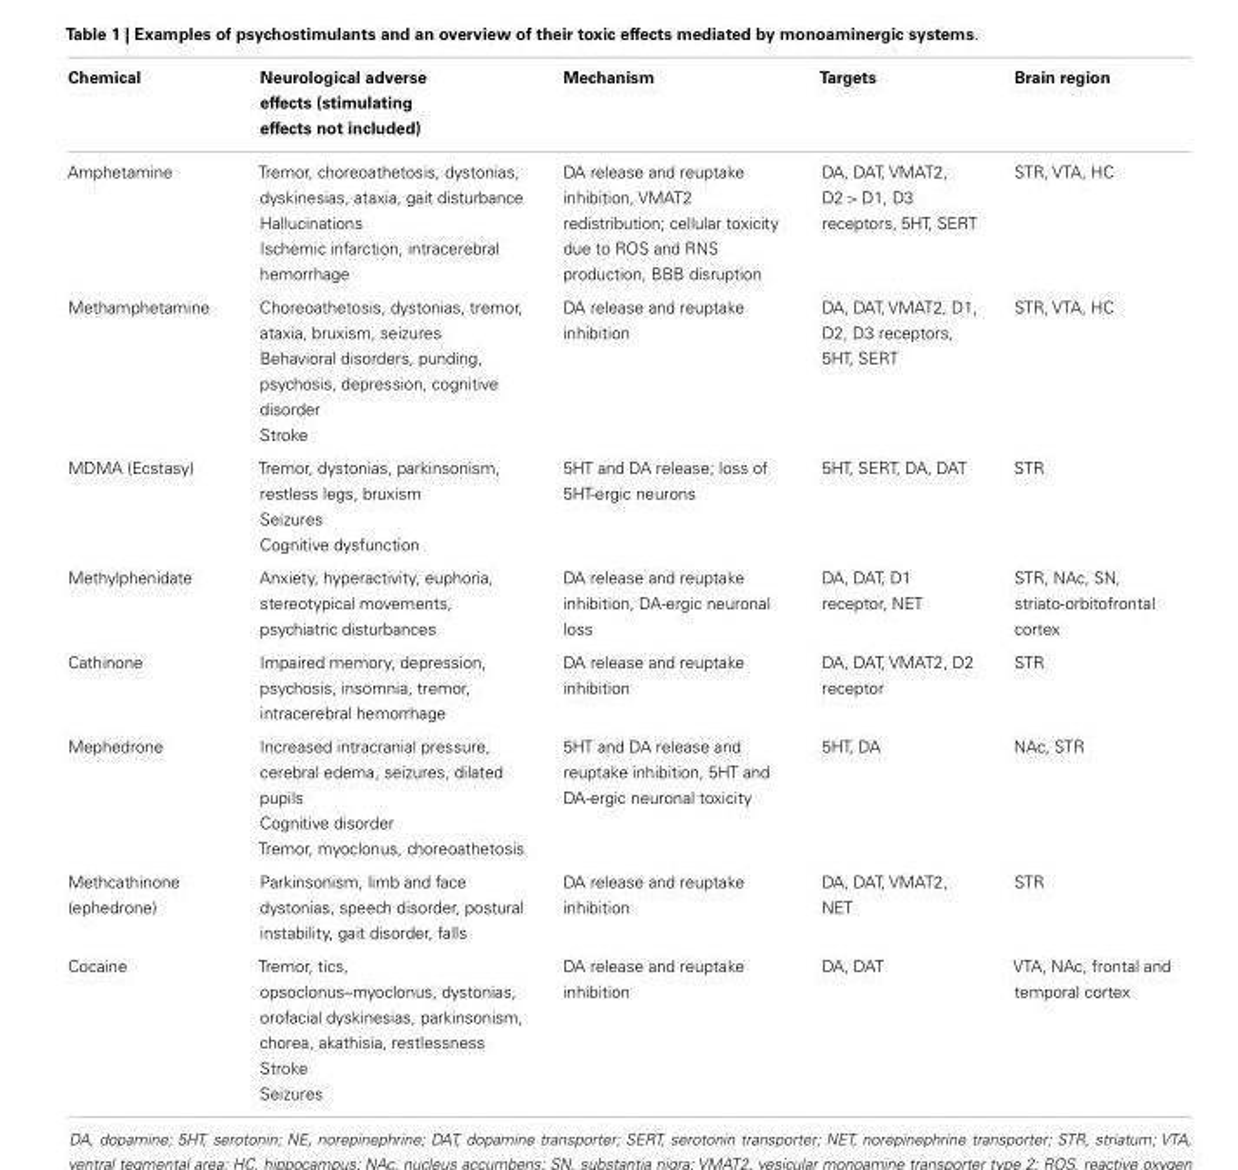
<table><thead><tr><td>Chemical</td><td>Neurological adverse effects (stimulating effects not included)</td><td>Mechanism</td><td>Targets</td><td>Brain region</td></tr></thead><tbody><tr><td>Amphetamine</td><td>Tremor, choreoathetosis, dystonias, dyskinesias, ataxia, gait disturbance Hallucinations Ischemic infarction, intracerebral hemorrhage</td><td>DA release and reuptake inhibition, VMAT2 redistribution; cellular toxicity due to ROS and RNS production, BBB disruption</td><td>DA, DAT, VMAT2, D2 &gt; D1, D3 receptors, 5HT, SERT</td><td>STR, VTA, HC</td></tr><tr><td>Methamphetamine</td><td>Choreoathetosis, dystonias, tremor, ataxia, bruxism, seizures Behavioral disorders, punding, psychosis, depression, cognitive disorder Stroke</td><td>DA release and reuptake inhibition</td><td>DA, DAT, VMAT2, D1, D2, D3 receptors, 5HT, SERT</td><td>STR, VTA, HC</td></tr><tr><td>MDMA (Ecstasy)</td><td>Tremor, dystonias, parkinsonism, restless legs, bruxism Seizures Cognitive dysfunction</td><td>5HT and DA release; loss of 5HT-ergic neurons</td><td>5HT, SERT, DA, DAT</td><td>STR</td></tr><tr><td>Methylphenidate</td><td>Anxiety, hyperactivity, euphoria, stereotypical movements, psychiatric disturbances</td><td>DA release and reuptake inhibition, DA-ergic neuronal loss</td><td>DA, DAT, D1 receptor, NET</td><td>STR, NAc, SN, striato-orbitofrontal cortex</td></tr><tr><td>Cathinone</td><td>Impaired memory, depression, psychosis, insomnia, tremor, intracerebral hemorrhage</td><td>DA release and reuptake inhibition</td><td>DA, DAT, VMAT2, D2 receptor</td><td>STR</td></tr><tr><td>Mephedrone</td><td>Increased intracranial pressure, cerebral edema, seizures, dilated pupils Cognitive disorder Tremor, myoclonus, choreoathetosis</td><td>5HT and DA release and reuptake inhibition, 5HT and DA-ergic neuronal toxicity</td><td>5HT, DA</td><td>NAc, STR</td></tr><tr><td>Methcathinone (ephedrone)</td><td>Parkinsonism, limb and face dystonias, speech disorder, postural instability, gait disorder, falls</td><td>DA release and reuptake inhibition</td><td>DA, DAT, VMAT2, NET</td><td>STR</td></tr><tr><td>Cocaine</td><td>Tremor, tics, opsoclonus–myoclonus, dystonias, orofacial dyskinesias, parkinsonism, chorea, akathisia, restlessness Stroke Seizures</td><td>DA release and reuptake inhibition</td><td>DA, DAT</td><td>VTA, NAc, frontal and temporal cortex</td></tr></tbody></table>